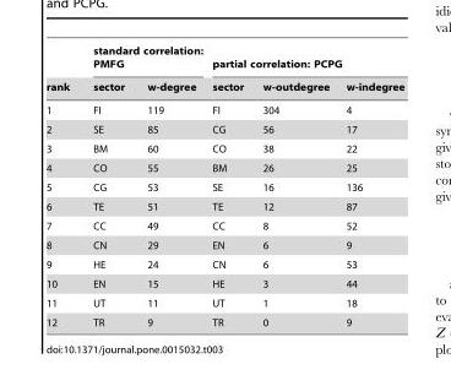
<table><thead><tr><td rowspan="2">rank</td><td colspan="2">standard correlation: PMFG</td><td colspan="3">partial correlation: PCPG</td></tr><tr><td>sector</td><td>w-degree</td><td>sector</td><td>w-outdegree</td><td>w-indegree</td></tr></thead><tbody><tr><td>1</td><td>FI</td><td>119</td><td>FI</td><td>304</td><td>4</td></tr><tr><td>2</td><td>SE</td><td>85</td><td>CG</td><td>56</td><td>17</td></tr><tr><td>3</td><td>BM</td><td>60</td><td>CO</td><td>38</td><td>22</td></tr><tr><td>4</td><td>CO</td><td>55</td><td>BM</td><td>26</td><td>25</td></tr><tr><td>5</td><td>CG</td><td>53</td><td>SE</td><td>16</td><td>136</td></tr><tr><td>6</td><td>TE</td><td>51</td><td>TE</td><td>12</td><td>87</td></tr><tr><td>7</td><td>CC</td><td>49</td><td>CC</td><td>8</td><td>52</td></tr><tr><td>8</td><td>CN</td><td>29</td><td>EN</td><td>6</td><td>9</td></tr><tr><td>9</td><td>HE</td><td>24</td><td>CN</td><td>6</td><td>53</td></tr><tr><td>10</td><td>EN</td><td>15</td><td>HE</td><td>3</td><td>44</td></tr><tr><td>11</td><td>UT</td><td>11</td><td>UT</td><td>1</td><td>18</td></tr><tr><td>12</td><td>TR</td><td>9</td><td>TR</td><td>0</td><td>9</td></tr></tbody></table>